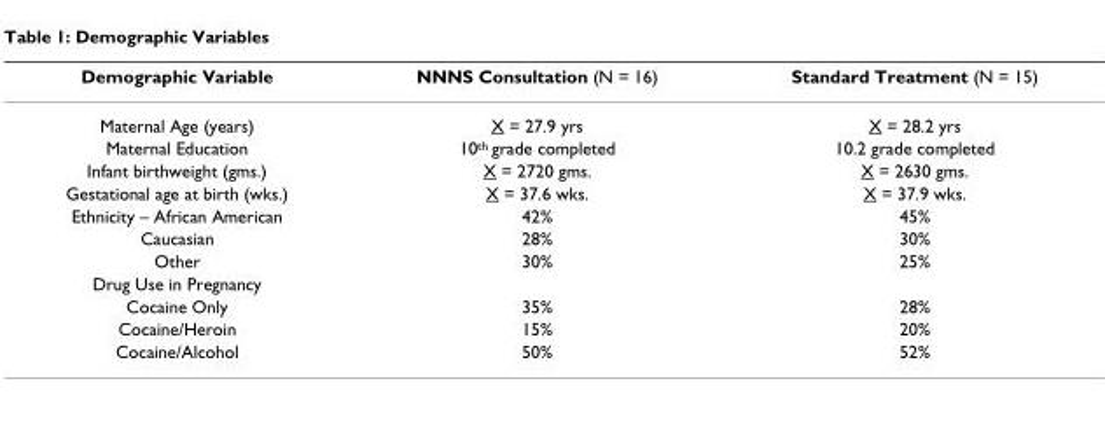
<table><thead><tr><td>Demographic Variable</td><td>NNNS Consultation (N = 16)</td><td>Standard Treatment (N = 15)</td></tr></thead><tbody><tr><td>Maternal Age (years)</td><td>X = 27.9 yrs</td><td>X = 28.2 yrs</td></tr><tr><td>Maternal Education</td><td>10<sup>th</sup> grade completed</td><td>10.2 grade completed</td></tr><tr><td>Infant birthweight (gms.)</td><td>X = 2720 gms.</td><td>X = 2630 gms.</td></tr><tr><td>Gestational age at birth (wks.)</td><td>X = 37.6 wks.</td><td>X = 37.9 wks.</td></tr><tr><td>Ethnicity – African American</td><td>42%</td><td>45%</td></tr><tr><td>Caucasian</td><td>28%</td><td>30%</td></tr><tr><td>Other</td><td>30%</td><td>25%</td></tr><tr><td colspan="3">Drug Use in Pregnancy</td></tr><tr><td>Cocaine Only</td><td>35%</td><td>28%</td></tr><tr><td>Cocaine/Heroin</td><td>15%</td><td>20%</td></tr><tr><td>Cocaine/Alcohol</td><td>50%</td><td>52%</td></tr></tbody></table>